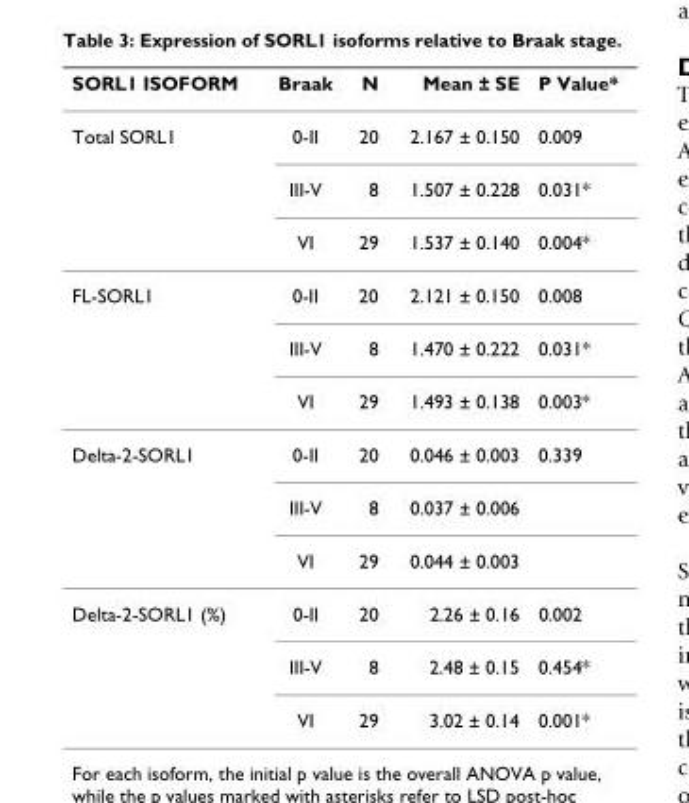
<table><thead><tr><td>SORL1 ISOFORM</td><td>Braak</td><td>N</td><td>Mean ± SE</td><td>P Value*</td></tr></thead><tbody><tr><td rowspan="3">Total SORL1</td><td>0-II</td><td>20</td><td>2.167 ± 0.150</td><td>0.009</td></tr><tr><td>III-V</td><td>8</td><td>1.507 ± 0.228</td><td>0.031*</td></tr><tr><td>VI</td><td>29</td><td>1.537 ± 0.140</td><td>0.004*</td></tr><tr><td rowspan="3">FL-SORL1</td><td>0-II</td><td>20</td><td>2.121 ± 0.150</td><td>0.008</td></tr><tr><td>III-V</td><td>8</td><td>1.470 ± 0.222</td><td>0.031*</td></tr><tr><td>VI</td><td>29</td><td>1.493 ± 0.138</td><td>0.003*</td></tr><tr><td rowspan="3">Delta-2-SORL1</td><td>0-II</td><td>20</td><td>0.046 ± 0.003</td><td>0.339</td></tr><tr><td>III-V</td><td>8</td><td>0.037 ± 0.006</td><td></td></tr><tr><td>VI</td><td>29</td><td>0.044 ± 0.003</td><td></td></tr><tr><td rowspan="3">Delta-2-SORL1 (%)</td><td>0-II</td><td>20</td><td>2.26 ± 0.16</td><td>0.002</td></tr><tr><td>III-V</td><td>8</td><td>2.48 ± 0.15</td><td>0.454*</td></tr><tr><td>VI</td><td>29</td><td>3.02 ± 0.14</td><td>0.001*</td></tr></tbody></table>